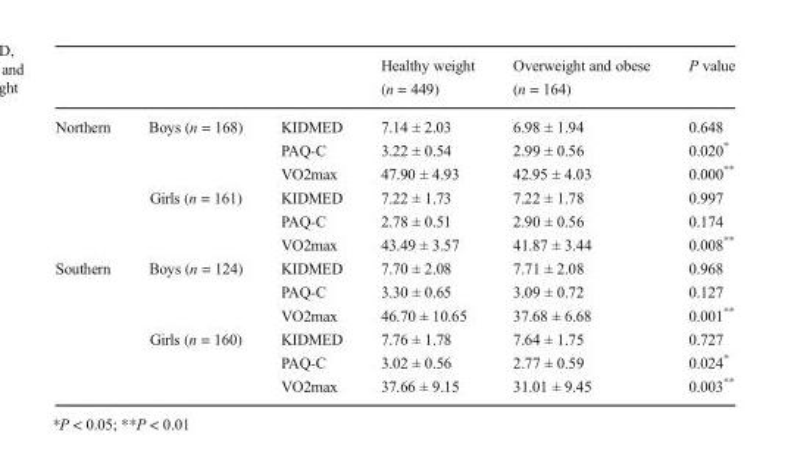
<table><thead><tr><td></td><td></td><td></td><td>Healthy weight (n = 449)</td><td>Overweight and obese (n = 164)</td><td>P value</td></tr></thead><tbody><tr><td rowspan="6">Northern</td><td rowspan="3">Boys (n = 168)</td><td>KIDMED</td><td>7.14 ± 2.03</td><td>6.98 ± 1.94</td><td>0.648</td></tr><tr><td>PAQ-C</td><td>3.22 ± 0.54</td><td>2.99 ± 0.56</td><td>0.020*</td></tr><tr><td>VO2max</td><td>47.90 ± 4.93</td><td>42.95 ± 4.03</td><td>0.000**</td></tr><tr><td rowspan="3">Girls (n = 161)</td><td>KIDMED</td><td>7.22 ± 1.73</td><td>7.22 ± 1.78</td><td>0.997</td></tr><tr><td>PAQ-C</td><td>2.78 ± 0.51</td><td>2.90 ± 0.56</td><td>0.174</td></tr><tr><td>VO2max</td><td>43.49 ± 3.57</td><td>41.87 ± 3.44</td><td>0.008**</td></tr><tr><td rowspan="6">Southern</td><td rowspan="3">Boys (n = 124)</td><td>KIDMED</td><td>7.70 ± 2.08</td><td>7.71 ± 2.08</td><td>0.968</td></tr><tr><td>PAQ-C</td><td>3.30 ± 0.65</td><td>3.09 ± 0.72</td><td>0.127</td></tr><tr><td>VO2max</td><td>46.70 ± 10.65</td><td>37.68 ± 6.68</td><td>0.001**</td></tr><tr><td rowspan="3">Girls (n = 160)</td><td>KIDMED</td><td>7.76 ± 1.78</td><td>7.64 ± 1.75</td><td>0.727</td></tr><tr><td>PAQ-C</td><td>3.02 ± 0.56</td><td>2.77 ± 0.59</td><td>0.024*</td></tr><tr><td>VO2max</td><td>37.66 ± 9.15</td><td>31.01 ± 9.45</td><td>0.003**</td></tr></tbody></table>